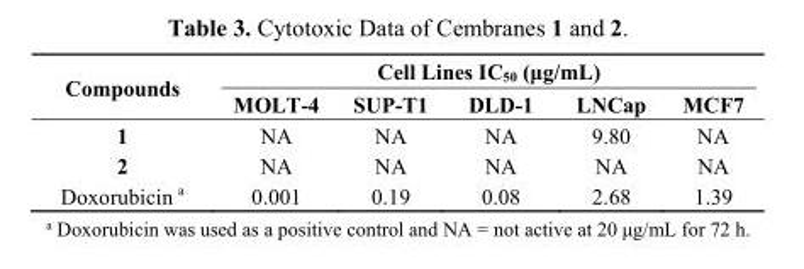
<table><thead><tr><td rowspan="2">Compounds</td><td colspan="5">Cell Lines IC<sub>50</sub> (μg/mL)</td></tr><tr><td>MOLT-4</td><td>SUP-T1</td><td>DLD-1</td><td>LNCap</td><td>MCF7</td></tr></thead><tbody><tr><td>1</td><td>NA</td><td>NA</td><td>NA</td><td>9.80</td><td>NA</td></tr><tr><td>2</td><td>NA</td><td>NA</td><td>NA</td><td>NA</td><td>NA</td></tr><tr><td>Doxorubicin <sup>a</sup></td><td>0.001</td><td>0.19</td><td>0.08</td><td>2.68</td><td>1.39</td></tr></tbody></table>